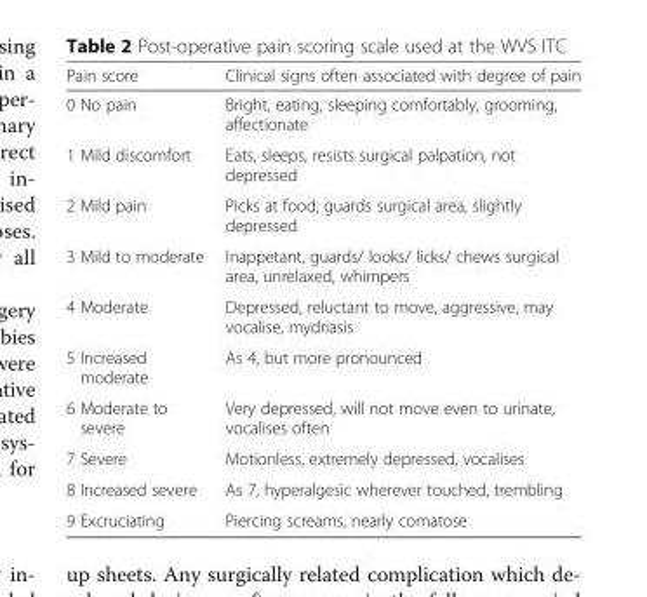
<table><thead><tr><td>Pain score</td><td>Clinical signs often associated with degree of pain</td></tr></thead><tbody><tr><td>0 No pain</td><td>Bright, eating, sleeping comfortably, grooming, affectionate</td></tr><tr><td>1 Mild discomfort</td><td>Eats, sleeps, resists surgical palpation, not depressed</td></tr><tr><td>2 Mild pain</td><td>Picks at food, guards surgical area, slightly depressed</td></tr><tr><td>3 Mild to moderate</td><td>Inappetant, guards/ looks/ licks/ chews surgical area, unrelaxed, whimpers</td></tr><tr><td>4 Moderate</td><td>Depressed, reluctant to move, aggressive, may vocalise, mydriasis</td></tr><tr><td>5 Increased moderate</td><td>As 4, but more pronounced</td></tr><tr><td>6 Moderate to severe</td><td>Very depressed, will not move even to urinate, vocalises often</td></tr><tr><td>7 Severe</td><td>Motionless, extremely depressed, vocalises</td></tr><tr><td>8 Increased severe</td><td>As 7, hyperalgesic wherever touched, trembling</td></tr><tr><td>9 Excruciating</td><td>Piercing screams, nearly comatose</td></tr></tbody></table>